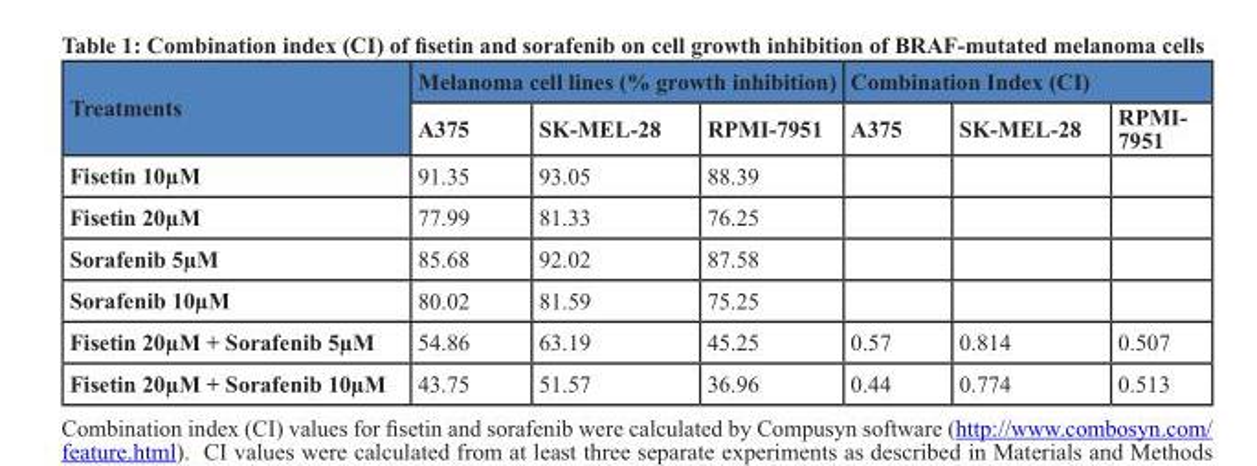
<table><thead><tr><td rowspan="2">Treatments</td><td colspan="3">Melanoma cell lines (% growth inhibition)</td><td colspan="3">Combination Index (CI)</td></tr><tr><td>A375</td><td>SK-MEL-28</td><td>RPMI-7951</td><td>A375</td><td>SK-MEL-28</td><td>RPMI- 7951</td></tr></thead><tbody><tr><td>Fisetin 10µM</td><td>91.35</td><td>93.05</td><td>88.39</td><td></td><td></td><td></td></tr><tr><td>Fisetin 20µM</td><td>77.99</td><td>81.33</td><td>76.25</td><td></td><td></td><td></td></tr><tr><td>Sorafenib 5µM</td><td>85.68</td><td>92.02</td><td>87.58</td><td></td><td></td><td></td></tr><tr><td>Sorafenib 10µM</td><td>80.02</td><td>81.59</td><td>75.25</td><td></td><td></td><td></td></tr><tr><td>Fisetin 20µM + Sorafenib 5µM</td><td>54.86</td><td>63.19</td><td>45.25</td><td>0.57</td><td>0.814</td><td>0.507</td></tr><tr><td>Fisetin 20µM + Sorafenib 10µM</td><td>43.75</td><td>51.57</td><td>36.96</td><td>0.44</td><td>0.774</td><td>0.513</td></tr></tbody></table>